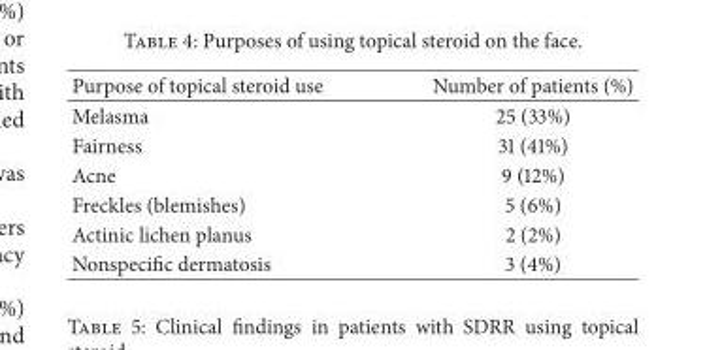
<table><thead><tr><td>Purpose of topical steroid use</td><td>Number of patients (%)</td></tr></thead><tbody><tr><td>Melasma</td><td>25 (33%)</td></tr><tr><td>Fairness</td><td>31 (41%)</td></tr><tr><td>Acne</td><td>9 (12%)</td></tr><tr><td>Freckles (blemishes)</td><td>5 (6%)</td></tr><tr><td>Actinic lichen planus</td><td>2 (2%)</td></tr><tr><td>Nonspecific dermatosis</td><td>3 (4%)</td></tr></tbody></table>